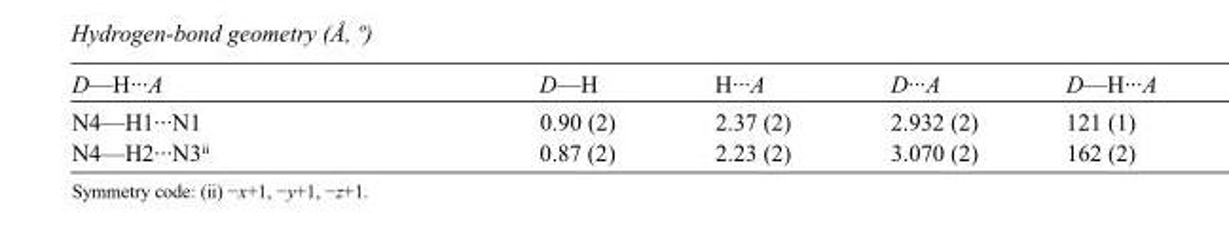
<table><tbody><tr><td>D—H···A</td><td>D—H</td><td>H···A</td><td>D···A</td><td>D—H···A</td></tr><tr><td>N4—H1···N1</td><td>0.90 (2)</td><td>2.37 (2)</td><td>2.932 (2)</td><td>121 (1)</td></tr><tr><td>N4—H2···N3<sup>ii</sup></td><td>0.87 (2)</td><td>2.23 (2)</td><td>3.070 (2)</td><td>162 (2)</td></tr></tbody></table>